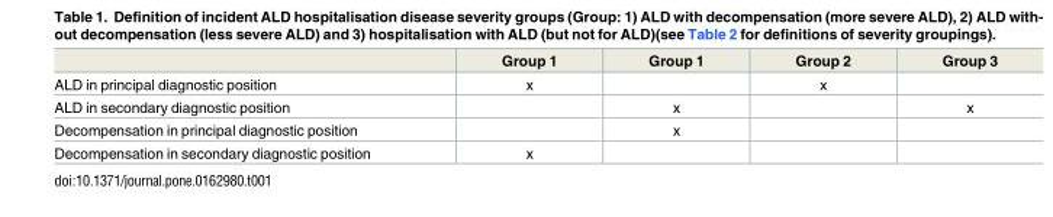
<table><thead><tr><td></td><td>Group 1</td><td>Group 1</td><td>Group 2</td><td>Group 3</td></tr></thead><tbody><tr><td>ALD in principal diagnostic position</td><td>x</td><td></td><td>x</td><td></td></tr><tr><td>ALD in secondary diagnostic position</td><td></td><td>x</td><td></td><td>x</td></tr><tr><td>Decompensation in principal diagnostic position</td><td></td><td>x</td><td></td><td></td></tr><tr><td>Decompensation in secondary diagnostic position</td><td>x</td><td></td><td></td><td></td></tr></tbody></table>